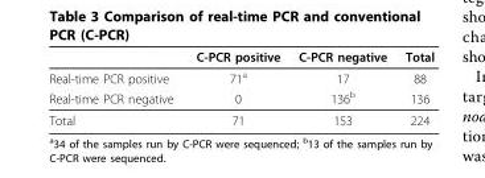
<table><thead><tr><td></td><td>C-PCR positive</td><td>C-PCR negative</td><td>Total</td></tr></thead><tbody><tr><td>Real-time PCR positive</td><td>71<sup>a</sup></td><td>17</td><td>88</td></tr><tr><td>Real-time PCR negative</td><td>0</td><td>136<sup>b</sup></td><td>136</td></tr><tr><td>Total</td><td>71</td><td>153</td><td>224</td></tr></tbody></table>